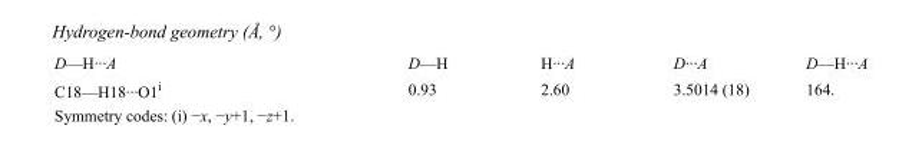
<table><tbody><tr><td>D—H···A</td><td>D—H</td><td>H···A</td><td>D···A</td><td>D—H···A</td></tr><tr><td>C18—H18···O1<sup>i</sup></td><td>0.93</td><td>2.60</td><td>3.5014 (18)</td><td>164.</td></tr></tbody></table>